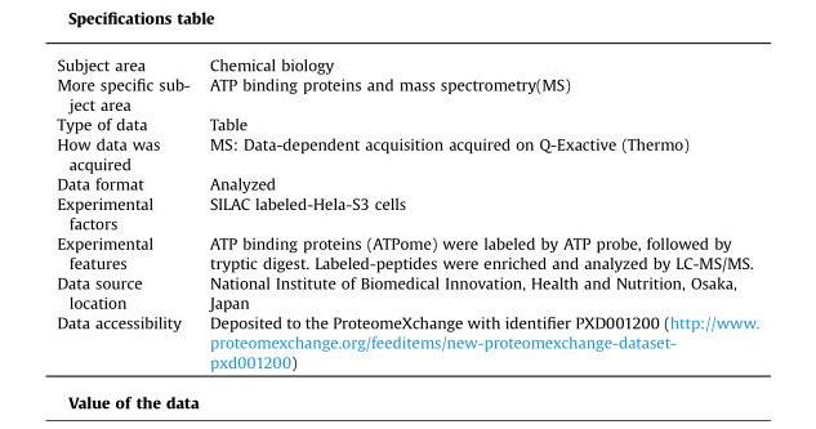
<table><tbody><tr><td>Subject area</td><td>Chemical biology</td></tr><tr><td>More specific sub- ject area</td><td>ATP binding proteins and mass spectrometry(MS)</td></tr><tr><td>Type of data</td><td>Table</td></tr><tr><td>How data was acquired</td><td>MS: Data-dependent acquisition acquired on Q-Exactive (Thermo)</td></tr><tr><td>Data format</td><td>Analyzed</td></tr><tr><td>Experimental factors</td><td>SILAC labeled-Hela-S3 cells</td></tr><tr><td>Experimental features</td><td>ATP binding proteins (ATPome) were labeled by ATP probe, followed by tryptic digest. Labeled-peptides were enriched and analyzed by LC-MS/MS.</td></tr><tr><td>Data source location</td><td>National Institute of Biomedical Innovation, Health and Nutrition, Osaka, Japan</td></tr><tr><td>Data accessibility</td><td>Deposited to the ProteomeXchange with identifier PXD001200 (http://www. proteomexchange.org/feeditems/new-proteomexchange-dataset- pxd001200)</td></tr></tbody></table>